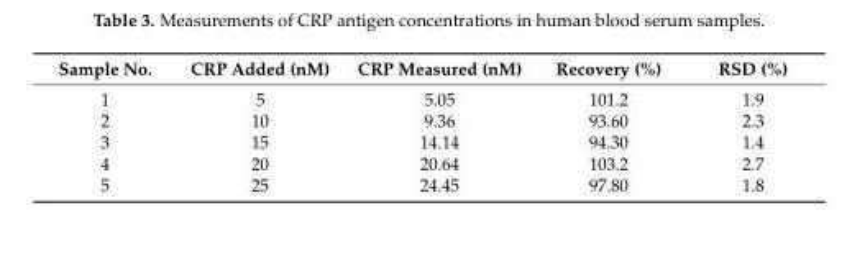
<table><thead><tr><td>Sample No.</td><td>CRP Added (nM)</td><td>CRP Measured (nM)</td><td>Recovery (%)</td><td>RSD (%)</td></tr></thead><tbody><tr><td>1</td><td>5</td><td>5.05</td><td>101.2</td><td>1.9</td></tr><tr><td>2</td><td>10</td><td>9.36</td><td>93.60</td><td>2.3</td></tr><tr><td>3</td><td>15</td><td>14.14</td><td>94.30</td><td>1.4</td></tr><tr><td>4</td><td>20</td><td>20.64</td><td>103.2</td><td>2.7</td></tr><tr><td>5</td><td>25</td><td>24.45</td><td>97.80</td><td>1.8</td></tr></tbody></table>